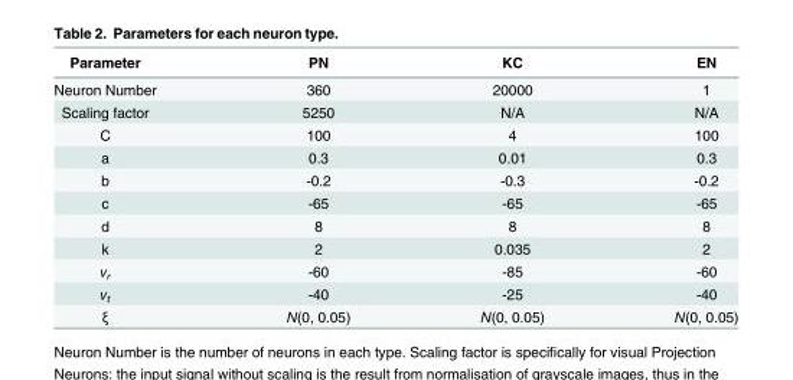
<table><thead><tr><td>Parameter</td><td>PN</td><td>KC</td><td>EN</td></tr></thead><tbody><tr><td>Neuron Number</td><td>360</td><td>20000</td><td>1</td></tr><tr><td>Scaling factor</td><td>5250</td><td>N/A</td><td>N/A</td></tr><tr><td>C</td><td>100</td><td>4</td><td>100</td></tr><tr><td>a</td><td>0.3</td><td>0.01</td><td>0.3</td></tr><tr><td>b</td><td>-0.2</td><td>-0.3</td><td>-0.2</td></tr><tr><td>c</td><td>-65</td><td>-65</td><td>-65</td></tr><tr><td>d</td><td>8</td><td>8</td><td>8</td></tr><tr><td>k</td><td>2</td><td>0.035</td><td>2</td></tr><tr><td>v<sub>r</sub></td><td>-60</td><td>-85</td><td>-60</td></tr><tr><td>v<sub>t</sub></td><td>-40</td><td>-25</td><td>-40</td></tr><tr><td>ξ</td><td>N(0, 0.05)</td><td>N(0, 0.05)</td><td>N(0, 0.05)</td></tr></tbody></table>